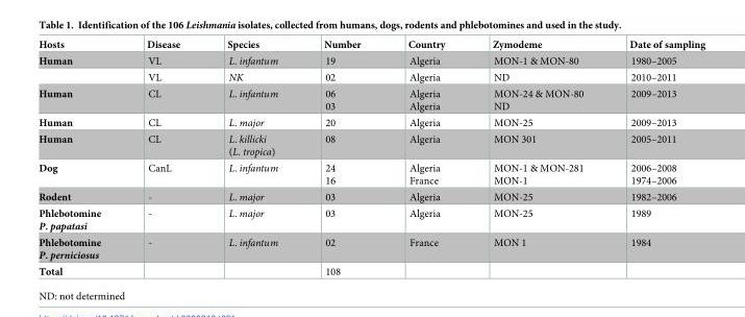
<table><thead><tr><td>Hosts</td><td>Disease</td><td>Species</td><td>Number</td><td>Country</td><td>Zymodeme</td><td>Date of sampling</td></tr></thead><tbody><tr><td rowspan="2">Human</td><td>VL</td><td>L. infantum</td><td>19</td><td>Algeria</td><td>MON-1 &amp; MON-80</td><td>1980–2005</td></tr><tr><td>VL</td><td>NK</td><td>02</td><td>Algeria</td><td>ND</td><td>2010–2011</td></tr><tr><td>Human</td><td>CL</td><td>L. infantum</td><td>06 03</td><td>Algeria Algeria</td><td>MON-24 &amp; MON-80 ND</td><td>2009–2013</td></tr><tr><td>Human</td><td>CL</td><td>L. major</td><td>20</td><td>Algeria</td><td>MON-25</td><td>2009–2013</td></tr><tr><td>Human</td><td>CL</td><td>L. killicki (L. tropica)</td><td>08</td><td>Algeria</td><td>MON 301</td><td>2005–2011</td></tr><tr><td>Dog</td><td>CanL</td><td>L. infantum</td><td>24 16</td><td>Algeria France</td><td>MON-1 &amp; MON-281 MON-1</td><td>2006–2008 1974–2006</td></tr><tr><td>Rodent</td><td>-</td><td>L. major</td><td>03</td><td>Algeria</td><td>MON-25</td><td>1982–2006</td></tr><tr><td>Phlebotomine P. papatasi</td><td>-</td><td>L. major</td><td>03</td><td>Algeria</td><td>MON-25</td><td>1989</td></tr><tr><td>Phlebotomine P. perniciosus</td><td>-</td><td>L. infantum</td><td>02</td><td>France</td><td>MON 1</td><td>1984</td></tr><tr><td>Total</td><td></td><td></td><td>108</td><td></td><td></td><td></td></tr></tbody></table>